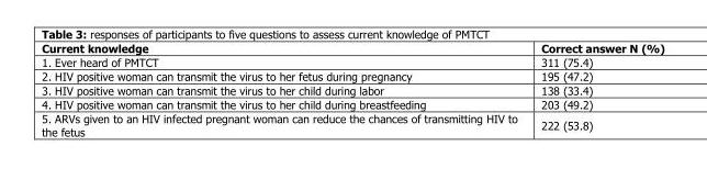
<table><thead><tr><td>Current knowledge</td><td>Correct answer N (%)</td></tr></thead><tbody><tr><td>1. Ever heard of PMTCT</td><td>311 (75.4)</td></tr><tr><td>2. HIV positive woman can transmit the virus to her fetus during pregnancy</td><td>195 (47.2)</td></tr><tr><td>3. HIV positive woman can transmit the virus to her child during labor</td><td>138 (33.4)</td></tr><tr><td>4. HIV positive woman can transmit the virus to her child during breastfeeding</td><td>203 (49.2)</td></tr><tr><td>5. ARVs given to an HIV infected pregnant woman can reduce the chances of transmitting HIV to the fetus</td><td>222 (53.8)</td></tr></tbody></table>